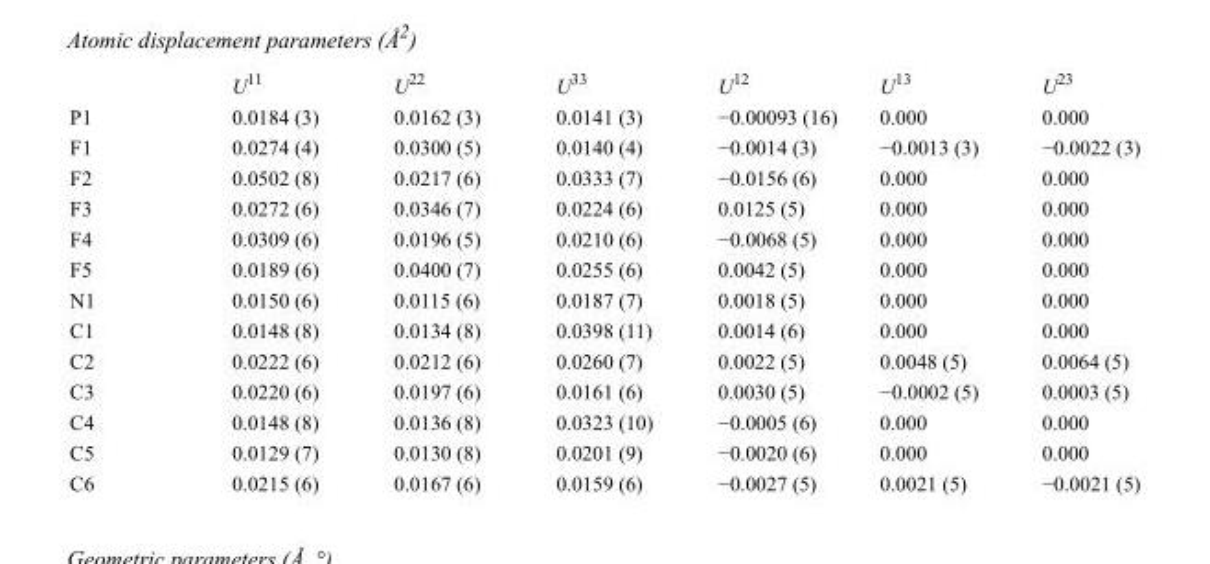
<table><thead><tr><td></td><td>U<sup>11</sup></td><td>U<sup>22</sup></td><td>U<sup>33</sup></td><td>U<sup>12</sup></td><td>U<sup>13</sup></td><td>U<sup>23</sup></td></tr></thead><tbody><tr><td>P1</td><td>0.0184 (3)</td><td>0.0162 (3)</td><td>0.0141 (3)</td><td>−0.00093 (16)</td><td>0.000</td><td>0.000</td></tr><tr><td>F1</td><td>0.0274 (4)</td><td>0.0300 (5)</td><td>0.0140 (4)</td><td>−0.0014 (3)</td><td>−0.0013 (3)</td><td>−0.0022 (3)</td></tr><tr><td>F2</td><td>0.0502 (8)</td><td>0.0217 (6)</td><td>0.0333 (7)</td><td>−0.0156 (6)</td><td>0.000</td><td>0.000</td></tr><tr><td>F3</td><td>0.0272 (6)</td><td>0.0346 (7)</td><td>0.0224 (6)</td><td>0.0125 (5)</td><td>0.000</td><td>0.000</td></tr><tr><td>F4</td><td>0.0309 (6)</td><td>0.0196 (5)</td><td>0.0210 (6)</td><td>−0.0068 (5)</td><td>0.000</td><td>0.000</td></tr><tr><td>F5</td><td>0.0189 (6)</td><td>0.0400 (7)</td><td>0.0255 (6)</td><td>0.0042 (5)</td><td>0.000</td><td>0.000</td></tr><tr><td>N1</td><td>0.0150 (6)</td><td>0.0115 (6)</td><td>0.0187 (7)</td><td>0.0018 (5)</td><td>0.000</td><td>0.000</td></tr><tr><td>C1</td><td>0.0148 (8)</td><td>0.0134 (8)</td><td>0.0398 (11)</td><td>0.0014 (6)</td><td>0.000</td><td>0.000</td></tr><tr><td>C2</td><td>0.0222 (6)</td><td>0.0212 (6)</td><td>0.0260 (7)</td><td>0.0022 (5)</td><td>0.0048 (5)</td><td>0.0064 (5)</td></tr><tr><td>C3</td><td>0.0220 (6)</td><td>0.0197 (6)</td><td>0.0161 (6)</td><td>0.0030 (5)</td><td>−0.0002 (5)</td><td>0.0003 (5)</td></tr><tr><td>C4</td><td>0.0148 (8)</td><td>0.0136 (8)</td><td>0.0323 (10)</td><td>−0.0005 (6)</td><td>0.000</td><td>0.000</td></tr><tr><td>C5</td><td>0.0129 (7)</td><td>0.0130 (8)</td><td>0.0201 (9)</td><td>−0.0020 (6)</td><td>0.000</td><td>0.000</td></tr><tr><td>C6</td><td>0.0215 (6)</td><td>0.0167 (6)</td><td>0.0159 (6)</td><td>−0.0027 (5)</td><td>0.0021 (5)</td><td>−0.0021 (5)</td></tr></tbody></table>